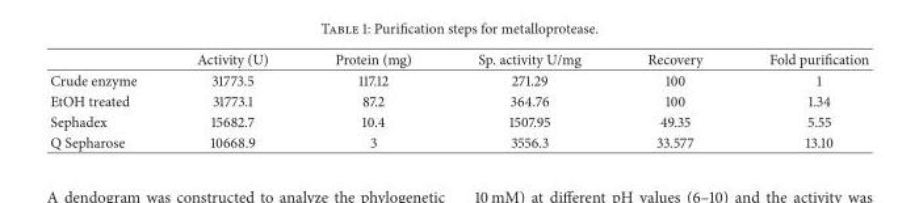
<table><thead><tr><td></td><td>Activity (U)</td><td>Protein (mg)</td><td>Sp. activity U/mg</td><td>Recovery</td><td>Fold purification</td></tr></thead><tbody><tr><td>Crude enzyme</td><td>31773.5</td><td>117.12</td><td>271.29</td><td>100</td><td>1</td></tr><tr><td>EtOH treated</td><td>31773.1</td><td>87.2</td><td>364.76</td><td>100</td><td>1.34</td></tr><tr><td>Sephadex</td><td>15682.7</td><td>10.4</td><td>1507.95</td><td>49.35</td><td>5.55</td></tr><tr><td>Q Sepharose</td><td>10668.9</td><td>3</td><td>3556.3</td><td>33.577</td><td>13.10</td></tr></tbody></table>